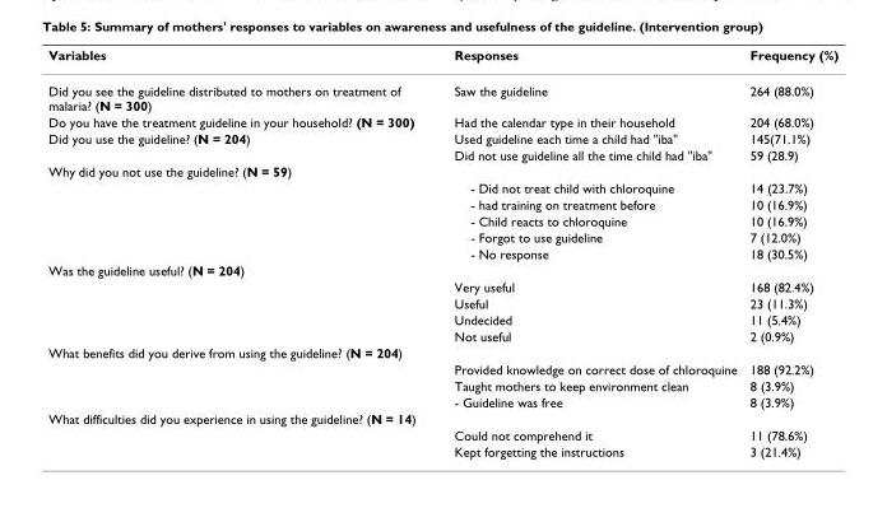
<table><thead><tr><td>Variables</td><td>Responses</td><td>Frequency (%)</td></tr></thead><tbody><tr><td>Did you see the guideline distributed to mothers on treatment of malaria? (N = 300)</td><td>Saw the guideline</td><td>264 (88.0%)</td></tr><tr><td>Do you have the treatment guideline in your household? (N = 300)</td><td>Had the calendar type in their household</td><td>204 (68.0%)</td></tr><tr><td rowspan="2">Did you use the guideline? (N = 204)</td><td>Used guideline each time a child had &quot;iba&quot;</td><td>145(71.1%)</td></tr><tr><td>Did not use guideline all the time child had &quot;iba&quot;</td><td>59 (28.9)</td></tr><tr><td colspan="3">Why did you not use the guideline? (N = 59)</td></tr><tr><td></td><td>- Did not treat child with chloroquine</td><td>14 (23.7%)</td></tr><tr><td></td><td>- had training on treatment before</td><td>10 (16.9%)</td></tr><tr><td></td><td>- Child reacts to chloroquine</td><td>10 (16.9%)</td></tr><tr><td></td><td>- Forgot to use guideline</td><td>7 (12.0%)</td></tr><tr><td></td><td>- No response</td><td>18 (30.5%)</td></tr><tr><td colspan="3">Was the guideline useful? (N = 204)</td></tr><tr><td></td><td>Very useful</td><td>168 (82.4%)</td></tr><tr><td></td><td>Useful</td><td>23 (11.3%)</td></tr><tr><td></td><td>Undecided</td><td>11 (5.4%)</td></tr><tr><td></td><td>Not useful</td><td>2 (0.9%)</td></tr><tr><td colspan="3">What benefits did you derive from using the guideline? (N = 204)</td></tr><tr><td></td><td>Provided knowledge on correct dose of chloroquine</td><td>188 (92.2%)</td></tr><tr><td></td><td>Taught mothers to keep environment clean</td><td>8 (3.9%)</td></tr><tr><td></td><td>- Guideline was free</td><td>8 (3.9%)</td></tr><tr><td colspan="3">What difficulties did you experience in using the guideline? (N = 14)</td></tr><tr><td></td><td>Could not comprehend it</td><td>11 (78.6%)</td></tr><tr><td></td><td>Kept forgetting the instructions</td><td>3 (21.4%)</td></tr></tbody></table>